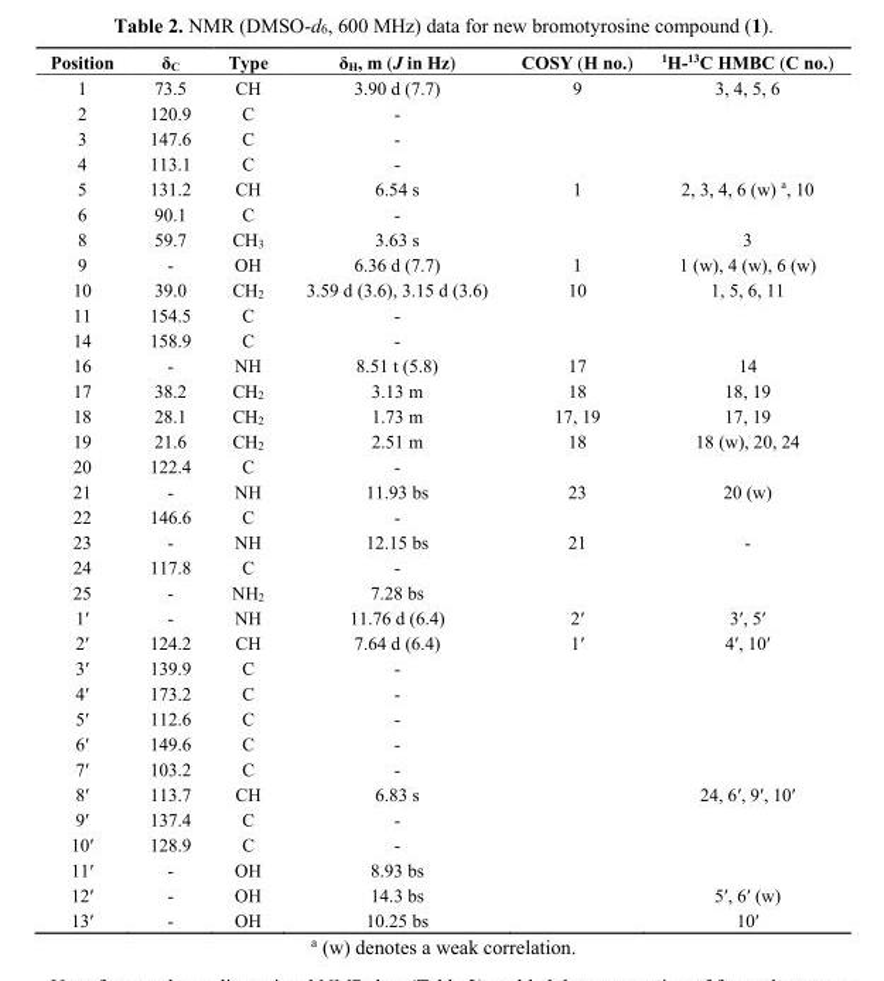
<table><thead><tr><td>Position</td><td>δC</td><td>Type</td><td>δH, m (J in Hz)</td><td>COSY (H no.)</td><td><sup>1</sup>H-<sup>13</sup>C HMBC (C no.)</td></tr></thead><tbody><tr><td>1</td><td>73.5</td><td>CH</td><td>3.90 d (7.7)</td><td>9</td><td>3, 4, 5, 6</td></tr><tr><td>2</td><td>120.9</td><td>C</td><td>-</td><td></td><td></td></tr><tr><td>3</td><td>147.6</td><td>C</td><td>-</td><td></td><td></td></tr><tr><td>4</td><td>113.1</td><td>C</td><td>-</td><td></td><td></td></tr><tr><td>5</td><td>131.2</td><td>CH</td><td>6.54 s</td><td>1</td><td>2, 3, 4, 6 (w) <sup>a</sup>, 10</td></tr><tr><td>6</td><td>90.1</td><td>C</td><td>-</td><td></td><td></td></tr><tr><td>8</td><td>59.7</td><td>CH<sub>3</sub></td><td>3.63 s</td><td></td><td>3</td></tr><tr><td>9</td><td>-</td><td>OH</td><td>6.36 d (7.7)</td><td>1</td><td>1 (w), 4 (w), 6 (w)</td></tr><tr><td>10</td><td>39.0</td><td>CH<sub>2</sub></td><td>3.59 d (3.6), 3.15 d (3.6)</td><td>10</td><td>1, 5, 6, 11</td></tr><tr><td>11</td><td>154.5</td><td>C</td><td>-</td><td></td><td></td></tr><tr><td>14</td><td>158.9</td><td>C</td><td>-</td><td></td><td></td></tr><tr><td>16</td><td>-</td><td>NH</td><td>8.51 t (5.8)</td><td>17</td><td>14</td></tr><tr><td>17</td><td>38.2</td><td>CH<sub>2</sub></td><td>3.13 m</td><td>18</td><td>18, 19</td></tr><tr><td>18</td><td>28.1</td><td>CH<sub>2</sub></td><td>1.73 m</td><td>17, 19</td><td>17, 19</td></tr><tr><td>19</td><td>21.6</td><td>CH<sub>2</sub></td><td>2.51 m</td><td>18</td><td>18 (w), 20, 24</td></tr><tr><td>20</td><td>122.4</td><td>C</td><td>-</td><td></td><td></td></tr><tr><td>21</td><td>-</td><td>NH</td><td>11.93 bs</td><td>23</td><td>20 (w)</td></tr><tr><td>22</td><td>146.6</td><td>C</td><td>-</td><td></td><td></td></tr><tr><td>23</td><td>-</td><td>NH</td><td>12.15 bs</td><td>21</td><td>-</td></tr><tr><td>24</td><td>117.8</td><td>C</td><td>-</td><td></td><td></td></tr><tr><td>25</td><td>-</td><td>NH<sub>2</sub></td><td>7.28 bs</td><td></td><td></td></tr><tr><td>1′</td><td>-</td><td>NH</td><td>11.76 d (6.4)</td><td>2′</td><td>3′, 5′</td></tr><tr><td>2′</td><td>124.2</td><td>CH</td><td>7.64 d (6.4)</td><td>1′</td><td>4′, 10′</td></tr><tr><td>3′</td><td>139.9</td><td>C</td><td>-</td><td></td><td></td></tr><tr><td>4′</td><td>173.2</td><td>C</td><td>-</td><td></td><td></td></tr><tr><td>5′</td><td>112.6</td><td>C</td><td>-</td><td></td><td></td></tr><tr><td>6′</td><td>149.6</td><td>C</td><td>-</td><td></td><td></td></tr><tr><td>7′</td><td>103.2</td><td>C</td><td>-</td><td></td><td></td></tr><tr><td>8′</td><td>113.7</td><td>CH</td><td>6.83 s</td><td></td><td>24, 6′, 9′, 10′</td></tr><tr><td>9′</td><td>137.4</td><td>C</td><td>-</td><td></td><td></td></tr><tr><td>10′</td><td>128.9</td><td>C</td><td>-</td><td></td><td></td></tr><tr><td>11′</td><td>-</td><td>OH</td><td>8.93 bs</td><td></td><td></td></tr><tr><td>12′</td><td>-</td><td>OH</td><td>14.3 bs</td><td></td><td>5′, 6′ (w)</td></tr><tr><td>13′</td><td>-</td><td>OH</td><td>10.25 bs</td><td></td><td>10′</td></tr></tbody></table>